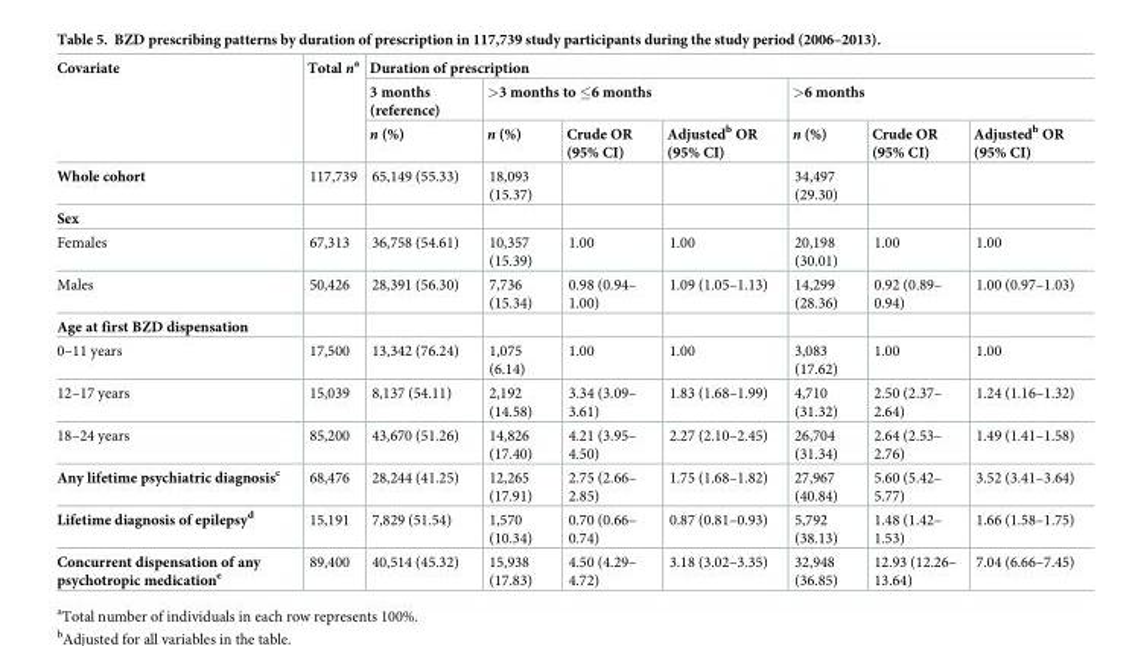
<table><thead><tr><td rowspan="3">Covariate</td><td rowspan="3">Total n<sup>a</sup></td><td colspan="7">Duration of prescription</td></tr><tr><td rowspan="2">3 months (reference) n (%)</td><td colspan="3">&gt;3 months to ≤6 months</td><td colspan="3">&gt;6 months</td></tr><tr><td>n (%)</td><td>Crude OR (95% CI)</td><td>Adjusted<sup>b</sup> OR (95% CI)</td><td>n (%)</td><td>Crude OR (95% CI)</td><td>Adjusted<sup>b</sup> OR (95% CI)</td></tr></thead><tbody><tr><td>Whole cohort</td><td>117,739</td><td>65,149 (55.33)</td><td>18,093 (15.37)</td><td></td><td></td><td>34,497 (29.30)</td><td></td><td></td></tr><tr><td colspan="9">Sex</td></tr><tr><td>Females</td><td>67,313</td><td>36,758 (54.61)</td><td>10,357 (15.39)</td><td>1.00</td><td>1.00</td><td>20,198 (30.01)</td><td>1.00</td><td>1.00</td></tr><tr><td>Males</td><td>50,426</td><td>28,391 (56.30)</td><td>7,736 (15.34)</td><td>0.98 (0.94– 1.00)</td><td>1.09 (1.05–1.13)</td><td>14,299 (28.36)</td><td>0.92 (0.89– 0.94)</td><td>1.00 (0.97–1.03)</td></tr><tr><td colspan="9">Age at first BZD dispensation</td></tr><tr><td>0–11 years</td><td>17,500</td><td>13,342 (76.24)</td><td>1,075 (6.14)</td><td>1.00</td><td>1.00</td><td>3,083 (17.62)</td><td>1.00</td><td>1.00</td></tr><tr><td>12–17 years</td><td>15,039</td><td>8,137 (54.11)</td><td>2,192 (14.58)</td><td>3.34 (3.09– 3.61)</td><td>1.83 (1.68–1.99)</td><td>4,710 (31.32)</td><td>2.50 (2.37– 2.64)</td><td>1.24 (1.16–1.32)</td></tr><tr><td>18–24 years</td><td>85,200</td><td>43,670 (51.26)</td><td>14,826 (17.40)</td><td>4.21 (3.95– 4.50)</td><td>2.27 (2.10–2.45)</td><td>26,704 (31.34)</td><td>2.64 (2.53– 2.76)</td><td>1.49 (1.41–1.58)</td></tr><tr><td>Any lifetime psychiatric diagnosis<sup>c</sup></td><td>68,476</td><td>28,244 (41.25)</td><td>12,265 (17.91)</td><td>2.75 (2.66– 2.85)</td><td>1.75 (1.68–1.82)</td><td>27,967 (40.84)</td><td>5.60 (5.42– 5.77)</td><td>3.52 (3.41–3.64)</td></tr><tr><td>Lifetime diagnosis of epilepsy<sup>d</sup></td><td>15,191</td><td>7,829 (51.54)</td><td>1,570 (10.34)</td><td>0.70 (0.66– 0.74)</td><td>0.87 (0.81–0.93)</td><td>5,792 (38.13)</td><td>1.48 (1.42– 1.53)</td><td>1.66 (1.58–1.75)</td></tr><tr><td>Concurrent dispensation of any psychotropic medication<sup>e</sup></td><td>89,400</td><td>40,514 (45.32)</td><td>15,938 (17.83)</td><td>4.50 (4.29– 4.72)</td><td>3.18 (3.02–3.35)</td><td>32,948 (36.85)</td><td>12.93 (12.26– 13.64)</td><td>7.04 (6.66–7.45)</td></tr></tbody></table>